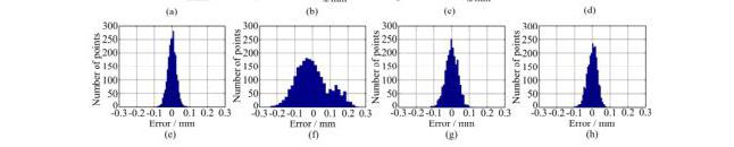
<table><thead><tr><td>Statistics</td><td>Monochromatic Fringes</td><td>WRGB Fringes</td><td>Results of the Method in Reference [18]</td><td>Results of the Method in This Research</td></tr></thead><tbody><tr><td>Max error</td><td>0.105 mm</td><td>0.258 mm</td><td>0.142 mm</td><td>0.110 mm</td></tr><tr><td>Std. dev.</td><td>0.025 mm</td><td>0.092 mm</td><td>0.036 mm</td><td>0.028 mm</td></tr></tbody></table>